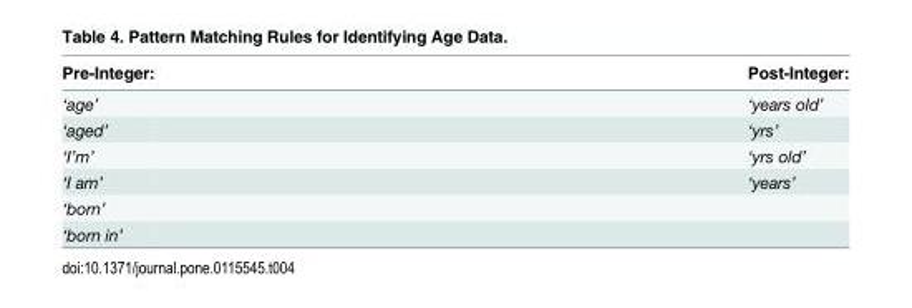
<table><thead><tr><td>Pre-Integer:</td><td>Post-Integer:</td></tr></thead><tbody><tr><td>‘age’</td><td>‘years old’</td></tr><tr><td>‘aged’</td><td>‘yrs’</td></tr><tr><td>‘I’m’</td><td>‘yrs old’</td></tr><tr><td>‘I am’</td><td>‘years’</td></tr><tr><td colspan="2">‘born’</td></tr><tr><td>‘born in’</td><td></td></tr></tbody></table>